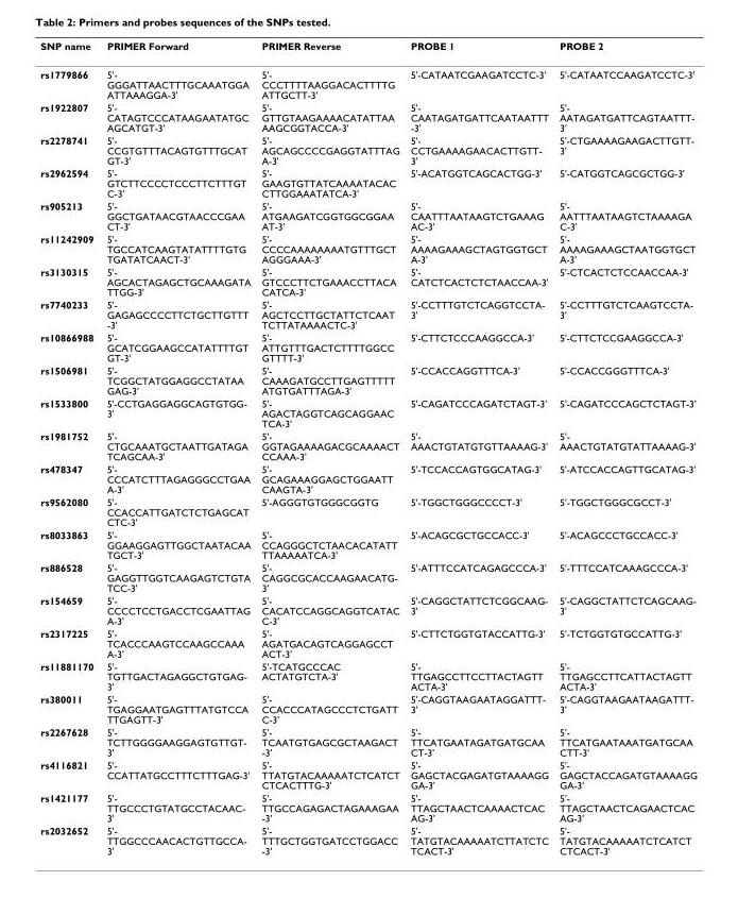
<table><thead><tr><td>SNP name</td><td>PRIMER Forward</td><td>PRIMER Reverse</td><td>PROBE 1</td><td>PROBE 2</td></tr></thead><tbody><tr><td>rs1779866</td><td>5&#x27;- GGGATTAACTTTGCAAATGGA ATTAAAGGA-3&#x27;</td><td>5&#x27;- CCCTTTTAAGGACACTTTTG ATTGCTT-3&#x27;</td><td>5&#x27;-CATAATCGAAGATCCTC-3&#x27;</td><td>5&#x27;-CATAATCCAAGATCCTC-3&#x27;</td></tr><tr><td>rs1922807</td><td>5&#x27;- CATAGTCCCATAAGAATATGC AGCATGT-3&#x27;</td><td>5&#x27;- GTTGTAAGAAAACATATTAA AAGCGGTACCA-3&#x27;</td><td>5&#x27;- CAATAGATGATTCAATAATTT -3&#x27;</td><td>5&#x27;- AATAGATGATTCAGTAATTT- 3&#x27;</td></tr><tr><td>rs2278741</td><td>5&#x27;- CCGTGTTTACAGTGTTTGCAT GT-3&#x27;</td><td>5&#x27;- AGCAGCCCCGAGGTATTTAG A-3&#x27;</td><td>5&#x27;- CCTGAAAAGAACACTTGTT- 3&#x27;</td><td>5&#x27;-CTGAAAAGAAGACTTGTT- 3&#x27;</td></tr><tr><td>rs2962594</td><td>5&#x27;- GTCTTCCCCTCCCTTCTTTGT C-3&#x27;</td><td>5&#x27;- GAAGTGTTATCAAAATACAC CTTGGAAATATCA-3&#x27;</td><td>5&#x27;-ACATGGTCAGCACTGG-3&#x27;</td><td>5&#x27;-CATGGTCAGCGCTGG-3&#x27;</td></tr><tr><td>rs905213</td><td>5&#x27;- GGCTGATAACGTAACCCGAA CT-3&#x27;</td><td>5&#x27;- ATGAAGATCGGTGGCGGAA AT-3&#x27;</td><td>5&#x27;- CAATTTAATAAGTCTGAAAG AC-3&#x27;</td><td>5&#x27;- AATTTAATAAGTCTAAAAGA C-3&#x27;</td></tr><tr><td>rs11242909</td><td>5&#x27;- TGCCATCAAGTATATTTTGTG TGATATCAACT-3&#x27;</td><td>5&#x27;- CCCCAAAAAAAATGTTTGCT AGGGAAA-3&#x27;</td><td>5&#x27;- AAAAGAAAGCTAGTGGTGCT A-3&#x27;</td><td>5&#x27;- AAAAGAAAGCTAATGGTGCT A-3&#x27;</td></tr><tr><td>rs3130315</td><td>5&#x27;- AGCACTAGAGCTGCAAAGATA TTGG-3&#x27;</td><td>5&#x27;- GTCCCTTCTGAAACCTTACA CATCA-3&#x27;</td><td>5&#x27;- CATCTCACTCTCTAACCAA-3&#x27;</td><td>5&#x27;-CTCACTCTCCAACCAA-3&#x27;</td></tr><tr><td>rs7740233</td><td>5&#x27;- GAGAGCCCCTTCTGCTTGTTT -3&#x27;</td><td>5&#x27;- AGCTCCTTGCTATTCTCAAT TCTTATAAAACTC-3&#x27;</td><td>5&#x27;-CCTTTGTCTCAGGTCCTA- 3&#x27;</td><td>5&#x27;-CCTTTGTCTCAAGTCCTA- 3&#x27;</td></tr><tr><td>rs10866988</td><td>5&#x27;- GCATCGGAAGCCATATTTTGT GT-3&#x27;</td><td>5&#x27;- ATTGTTTGACTCTTTTGGCC GTTTT-3&#x27;</td><td>5&#x27;-CTTCTCCCAAGGCCA-3&#x27;</td><td>5&#x27;-CTTCTCCGAAGGCCA-3&#x27;</td></tr><tr><td>rs1506981</td><td>5&#x27;- TCGGCTATGGAGGCCTATAA GAG-3&#x27;</td><td>5&#x27;- CAAAGATGCCTTGAGTTTTT ATGTGATTTAGA-3&#x27;</td><td>5&#x27;-CCACCAGGTTTCA-3&#x27;</td><td>5&#x27;-CCACCGGGTTTCA-3&#x27;</td></tr><tr><td>rs1533800</td><td>5&#x27;-CCTGAGGAGGCAGTGTGG- 3&#x27;</td><td>5&#x27;- AGACTAGGTCAGCAGGAAC TCA-3&#x27;</td><td>5&#x27;-CAGATCCCAGATCTAGT-3&#x27;</td><td>5&#x27;-CAGATCCCAGCTCTAGT-3&#x27;</td></tr><tr><td>rs1981752</td><td>5&#x27;- CTGCAAATGCTAATTGATAGA TCAGCAA-3&#x27;</td><td>5&#x27;- GGTAGAAAAGACGCAAAACT CCAAA-3&#x27;</td><td>5&#x27;- AAACTGTATGTGTTAAAAG-3&#x27;</td><td>5&#x27;- AAACTGTATGTATTAAAAG-3&#x27;</td></tr><tr><td>rs478347</td><td>5&#x27;- CCCATCTTTAGAGGGCCTGAA A-3&#x27;</td><td>5&#x27;- GCAGAAAGGAGCTGGAATT CAAGTA-3&#x27;</td><td>5&#x27;-TCCACCAGTGGCATAG-3&#x27;</td><td>5&#x27;-ATCCACCAGTTGCATAG-3&#x27;</td></tr><tr><td>rs9562080</td><td>5&#x27;- CCACCATTGATCTCTGAGCAT CTC-3&#x27;</td><td>5&#x27;-AGGGTGTGGGCGGTG</td><td>5&#x27;-TGGCTGGGCCCCT-3&#x27;</td><td>5&#x27;-TGGCTGGGCGCCT-3&#x27;</td></tr><tr><td>rs8033863</td><td>5&#x27;- GGAAGGAGTTGGCTAATACAA TGCT-3&#x27;</td><td>5&#x27;- CCAGGGCTCTAACACATATT TTAAAAATCA-3&#x27;</td><td>5&#x27;-ACAGCGCTGCCACC-3&#x27;</td><td>5&#x27;-ACAGCCCTGCCACC-3&#x27;</td></tr><tr><td>rs886528</td><td>5&#x27;- GAGGTTGGTCAAGAGTCTGTA TCC-3&#x27;</td><td>5&#x27;- CAGGCGCACCAAGAACATG- 3&#x27;</td><td>5&#x27;-ATTTCCATCAGAGCCCA-3&#x27;</td><td>5&#x27;-TTTCCATCAAAGCCCA-3&#x27;</td></tr><tr><td>rs154659</td><td>5&#x27;- CCCCTCCTGACCTCGAATTAG A-3&#x27;</td><td>5&#x27;- CACATCCAGGCAGGTCATAC C-3&#x27;</td><td>5&#x27;-CAGGCTATTCTCGGCAAG- 3&#x27;</td><td>5&#x27;-CAGGCTATTCTCAGCAAG- 3&#x27;</td></tr><tr><td>rs2317225</td><td>5&#x27;- TCACCCAAGTCCAAGCCAAA A-3&#x27;</td><td>5&#x27;- AGATGACAGTCAGGAGCCT ACT-3&#x27;</td><td>5&#x27;-CTTCTGGTGTACCATTG-3&#x27;</td><td>5&#x27;-TCTGGTGTGCCATTG-3&#x27;</td></tr><tr><td>rs11881170</td><td>5&#x27;- TGTTGACTAGAGGCTGTGAG- 3&#x27;</td><td>5&#x27;-TCATGCCCAC ACTATGTCTA-3&#x27;</td><td>5&#x27;- TTGAGCCTTCCTTACTAGTT ACTA-3&#x27;</td><td>5&#x27;- TTGAGCCTTCATTACTAGTT ACTA-3&#x27;</td></tr><tr><td>rs380011</td><td>5&#x27;- TGAGGAATGAGTTTATGTCCA TTGAGTT-3&#x27;</td><td>5&#x27;- CCACCCATAGCCCTCTGATT C-3&#x27;</td><td>5&#x27;-CAGGTAAGAATAGGATTT- 3&#x27;</td><td>5&#x27;-CAGGTAAGAATAAGATTT- 3&#x27;</td></tr><tr><td>rs2267628</td><td>5&#x27;- TCTTGGGGAAGGAGTGTTGT- 3&#x27;</td><td>5&#x27;- TCAATGTGAGCGCTAAGACT -3&#x27;</td><td>5&#x27;- TTCATGAATAGATGATGCAA CT-3&#x27;</td><td>5&#x27;- TTCATGAATAAATGATGCAA CTT-3&#x27;</td></tr><tr><td>rs4116821</td><td>5&#x27;- CCATTATGCCTTTCTTTGAG-3&#x27;</td><td>5&#x27;- TTATGTACAAAAATCTCATCT CTCACTTTG-3&#x27;</td><td>5&#x27;- GAGCTACGAGATGTAAAAGG GA-3&#x27;</td><td>5&#x27;- GAGCTACCAGATGTAAAAGG GA-3&#x27;</td></tr><tr><td>rs1421177</td><td>5&#x27;- TTGCCCTGTATGCCTACAAC- 3&#x27;</td><td>5&#x27;- TTGCCAGAGACTAGAAAGAA -3&#x27;</td><td>5&#x27;- TTAGCTAACTCAAAACTCAC AG-3&#x27;</td><td>5&#x27;- TTAGCTAACTCAGAACTCAC AG-3&#x27;</td></tr><tr><td>rs2032652</td><td>5&#x27;- TTGGCCCAACACTGTTGCCA- 3&#x27;</td><td>5&#x27;- TTTGCTGGTGATCCTGGACC -3&#x27;</td><td>5&#x27;- TATGTACAAAAATCTTATCTC TCACT-3&#x27;</td><td>5&#x27;- TATGTACAAAAATCTCATCT CTCACT-3&#x27;</td></tr></tbody></table>